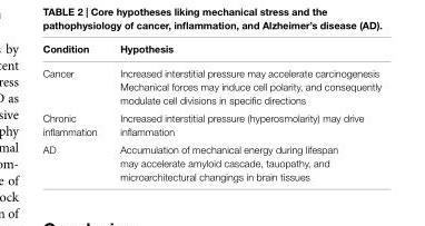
<table><thead><tr><td>Condition</td><td>Hypothesis</td></tr></thead><tbody><tr><td rowspan="2">Cancer</td><td>Increased interstitial pressure may accelerate carcinogenesis</td></tr><tr><td>Mechanical forces may induce cell polarity, and consequently modulate cell divisions in specific directions</td></tr><tr><td>Chronic inflammation</td><td>Increased interstitial pressure (hyperosmolarity) may drive inflammation</td></tr><tr><td>AD</td><td>Accumulation of mechanical energy during lifespan may accelerate amyloid cascade, tauopathy, and microarchitectural changings in brain tissues</td></tr></tbody></table>